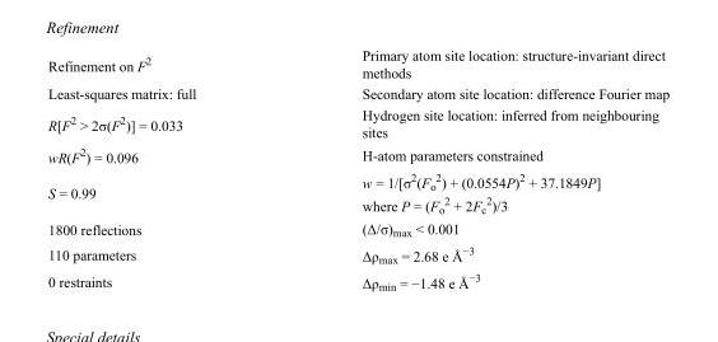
<table><tbody><tr><td>Refinement on F<sup>2</sup></td><td>Primary atom site location: structure-invariant direct methods</td></tr><tr><td>Least-squares matrix: full</td><td>Secondary atom site location: difference Fourier map</td></tr><tr><td>R[F<sup>2</sup> &gt; 2σ(F<sup>2</sup>)] = 0.033</td><td>Hydrogen site location: inferred from neighbouring sites</td></tr><tr><td>wR(F<sup>2</sup>) = 0.096</td><td>H-atom parameters constrained</td></tr><tr><td>S = 0.99</td><td>w = 1/[σ<sup>2</sup>(F<sub>o</sub> <sup>2</sup>) + (0.0554P)<sup>2</sup> + 37.1849P] where P = (F<sub>o</sub> <sup>2</sup> + 2F<sub>c</sub> <sup>2</sup>)/3</td></tr><tr><td>1800 reflections</td><td>(Δ/σ)<sub>max</sub> &lt; 0.001</td></tr><tr><td>110 parameters</td><td>Δρ<sub>max</sub> = 2.68 e Å<sup>−3</sup></td></tr><tr><td>0 restraints</td><td>Δρ<sub>min</sub> = −1.48 e Å<sup>−3</sup></td></tr></tbody></table>